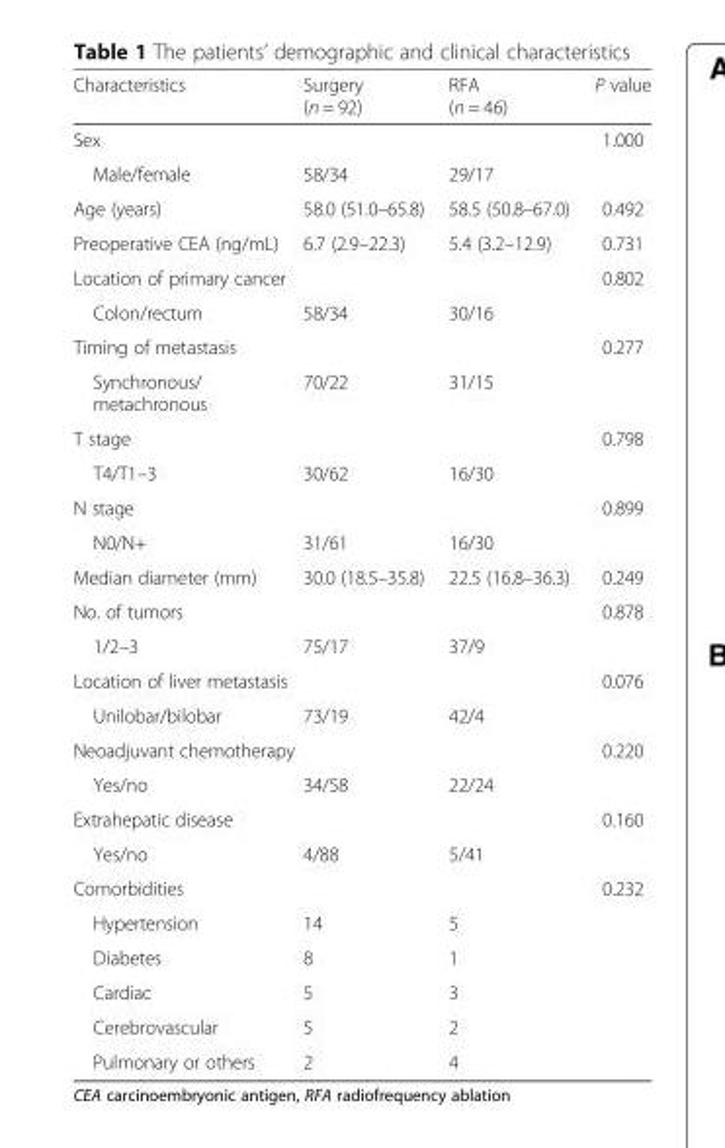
<table><thead><tr><td>Characteristics</td><td>Surgery (n = 92)</td><td>RFA (n = 46)</td><td>P value</td></tr></thead><tbody><tr><td colspan="3">Sex</td><td>1.000</td></tr><tr><td>Male/female</td><td>58/34</td><td>29/17</td><td></td></tr><tr><td>Age (years)</td><td>58.0 (51.0–65.8)</td><td>58.5 (50.8–67.0)</td><td>0.492</td></tr><tr><td>Preoperative CEA (ng/mL)</td><td>6.7 (2.9–22.3)</td><td>5.4 (3.2–12.9)</td><td>0.731</td></tr><tr><td colspan="3">Location of primary cancer</td><td>0.802</td></tr><tr><td>Colon/rectum</td><td>58/34</td><td>30/16</td><td></td></tr><tr><td colspan="3">Timing of metastasis</td><td>0.277</td></tr><tr><td>Synchronous/ metachronous</td><td>70/22</td><td>31/15</td><td></td></tr><tr><td colspan="3">T stage</td><td>0.798</td></tr><tr><td>T4/T1–3</td><td>30/62</td><td>16/30</td><td></td></tr><tr><td colspan="3">N stage</td><td>0.899</td></tr><tr><td>N0/N+</td><td>31/61</td><td>16/30</td><td></td></tr><tr><td>Median diameter (mm)</td><td>30.0 (18.5–35.8)</td><td>22.5 (16.8–36.3)</td><td>0.249</td></tr><tr><td colspan="3">No. of tumors</td><td>0.878</td></tr><tr><td>1/2–3</td><td>75/17</td><td>37/9</td><td></td></tr><tr><td colspan="3">Location of liver metastasis</td><td>0.076</td></tr><tr><td>Unilobar/bilobar</td><td>73/19</td><td>42/4</td><td></td></tr><tr><td colspan="3">Neoadjuvant chemotherapy</td><td>0.220</td></tr><tr><td>Yes/no</td><td>34/58</td><td>22/24</td><td></td></tr><tr><td colspan="3">Extrahepatic disease</td><td>0.160</td></tr><tr><td>Yes/no</td><td>4/88</td><td>5/41</td><td></td></tr><tr><td colspan="3">Comorbidities</td><td>0.232</td></tr><tr><td>Hypertension</td><td>14</td><td>5</td><td></td></tr><tr><td>Diabetes</td><td>8</td><td>1</td><td></td></tr><tr><td>Cardiac</td><td>5</td><td>3</td><td></td></tr><tr><td>Cerebrovascular</td><td>5</td><td>2</td><td></td></tr><tr><td>Pulmonary or others</td><td>2</td><td>4</td><td></td></tr></tbody></table>